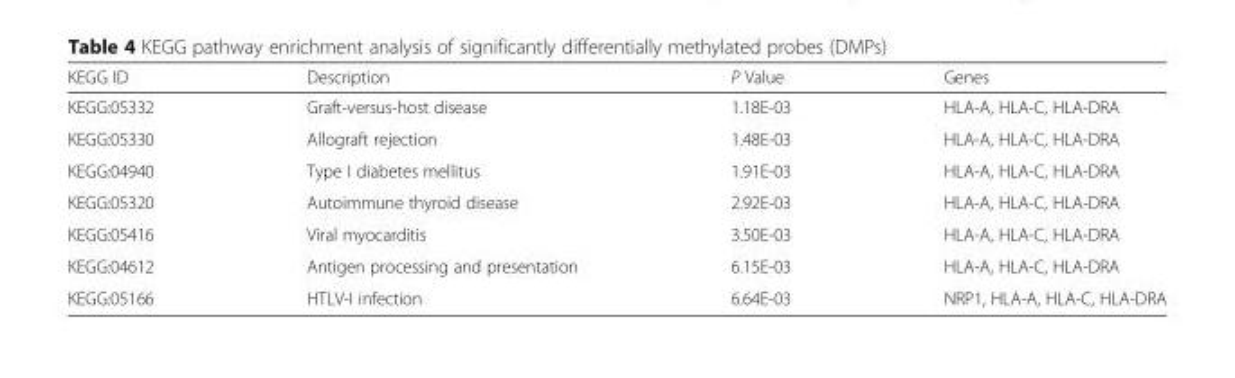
<table><thead><tr><td>KEGG ID</td><td>Description</td><td>P Value</td><td>Genes</td></tr></thead><tbody><tr><td>KEGG:05332</td><td>Graft-versus-host disease</td><td>1.18E-03</td><td>HLA-A, HLA-C, HLA-DRA</td></tr><tr><td>KEGG:05330</td><td>Allograft rejection</td><td>1.48E-03</td><td>HLA-A, HLA-C, HLA-DRA</td></tr><tr><td>KEGG:04940</td><td>Type I diabetes mellitus</td><td>1.91E-03</td><td>HLA-A, HLA-C, HLA-DRA</td></tr><tr><td>KEGG:05320</td><td>Autoimmune thyroid disease</td><td>2.92E-03</td><td>HLA-A, HLA-C, HLA-DRA</td></tr><tr><td>KEGG:05416</td><td>Viral myocarditis</td><td>3.50E-03</td><td>HLA-A, HLA-C, HLA-DRA</td></tr><tr><td>KEGG:04612</td><td>Antigen processing and presentation</td><td>6.15E-03</td><td>HLA-A, HLA-C, HLA-DRA</td></tr><tr><td>KEGG:05166</td><td>HTLV-I infection</td><td>6.64E-03</td><td>NRP1, HLA-A, HLA-C, HLA-DRA</td></tr></tbody></table>